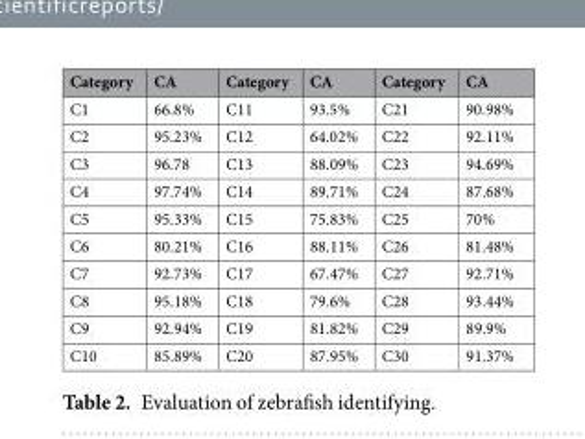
<table><thead><tr><td>Category</td><td>CA</td><td>Category</td><td>CA</td><td>Category</td><td>CA</td></tr></thead><tbody><tr><td>C1</td><td>66.8%</td><td>C11</td><td>93.5%</td><td>C21</td><td>90.98%</td></tr><tr><td>C2</td><td>95.23%</td><td>C12</td><td>64.02%</td><td>C22</td><td>92.11%</td></tr><tr><td>C3</td><td>96.78</td><td>C13</td><td>88.09%</td><td>C23</td><td>94.69%</td></tr><tr><td>C4</td><td>97.74%</td><td>C14</td><td>89.71%</td><td>C24</td><td>87.68%</td></tr><tr><td>C5</td><td>95.33%</td><td>C15</td><td>75.83%</td><td>C25</td><td>70%</td></tr><tr><td>C6</td><td>80.21%</td><td>C16</td><td>88.11%</td><td>C26</td><td>81.48%</td></tr><tr><td>C7</td><td>92.73%</td><td>C17</td><td>67.47%</td><td>C27</td><td>92.71%</td></tr><tr><td>C8</td><td>95.18%</td><td>C18</td><td>79.6%</td><td>C28</td><td>93.44%</td></tr><tr><td>C9</td><td>92.94%</td><td>C19</td><td>81.82%</td><td>C29</td><td>89.9%</td></tr><tr><td>C10</td><td>85.89%</td><td>C20</td><td>87.95%</td><td>C30</td><td>91.37%</td></tr></tbody></table>